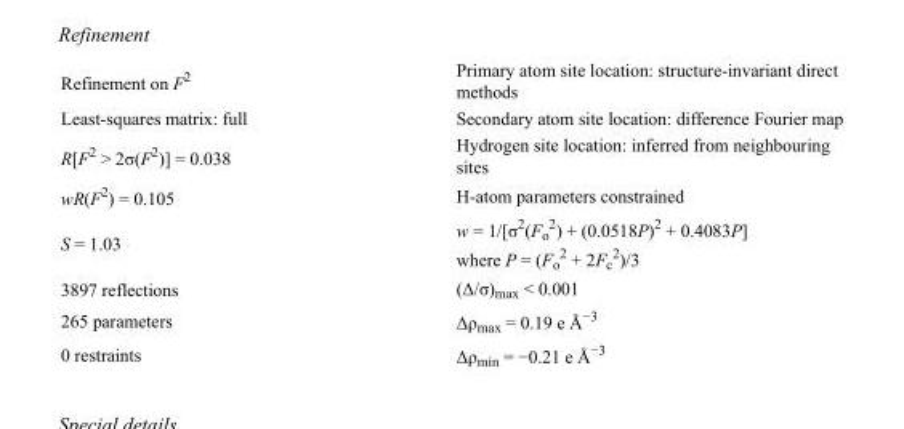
<table><tbody><tr><td>Refinement on F<sup>2</sup></td><td>Primary atom site location: structure-invariant direct methods</td></tr><tr><td>Least-squares matrix: full</td><td>Secondary atom site location: difference Fourier map</td></tr><tr><td>R[F<sup>2</sup> &gt; 2σ(F<sup>2</sup>)] = 0.038</td><td>Hydrogen site location: inferred from neighbouring sites</td></tr><tr><td>wR(F<sup>2</sup>) = 0.105</td><td>H-atom parameters constrained</td></tr><tr><td>S = 1.03</td><td>w = 1/[σ<sup>2</sup>(F<sub>o</sub> <sup>2</sup>) + (0.0518P)<sup>2</sup> + 0.4083P] where P = (F<sub>o</sub> <sup>2</sup> + 2F<sub>c</sub> <sup>2</sup>)/3</td></tr><tr><td>3897 reflections</td><td>(Δ/σ)<sub>max</sub> &lt; 0.001</td></tr><tr><td>265 parameters</td><td>Δρ<sub>max</sub> = 0.19 e Å<sup>−3</sup></td></tr><tr><td>0 restraints</td><td>Δρ<sub>min</sub> = −0.21 e Å<sup>−3</sup></td></tr></tbody></table>